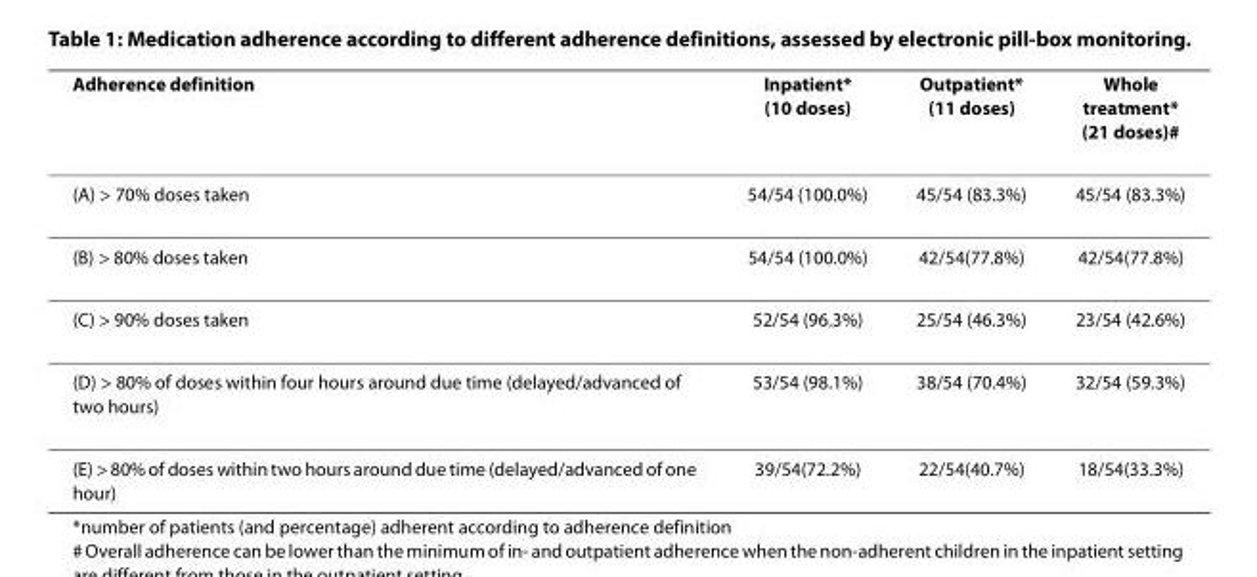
<table><thead><tr><td>Adherence definition</td><td>Inpatient* (10 doses)</td><td>Outpatient* (11 doses)</td><td>Whole treatment* (21 doses)#</td></tr></thead><tbody><tr><td>(A) &gt; 70% doses taken</td><td>54/54 (100.0%)</td><td>45/54 (83.3%)</td><td>45/54 (83.3%)</td></tr><tr><td>(B) &gt; 80% doses taken</td><td>54/54 (100.0%)</td><td>42/54(77.8%)</td><td>42/54(77.8%)</td></tr><tr><td>(C) &gt; 90% doses taken</td><td>52/54 (96.3%)</td><td>25/54 (46.3%)</td><td>23/54 (42.6%)</td></tr><tr><td>(D) &gt; 80% of doses within four hours around due time (delayed/advanced of two hours)</td><td>53/54 (98.1%)</td><td>38/54 (70.4%)</td><td>32/54 (59.3%)</td></tr><tr><td>(E) &gt; 80% of doses within two hours around due time (delayed/advanced of one hour)</td><td>39/54(72.2%)</td><td>22/54(40.7%)</td><td>18/54(33.3%)</td></tr></tbody></table>